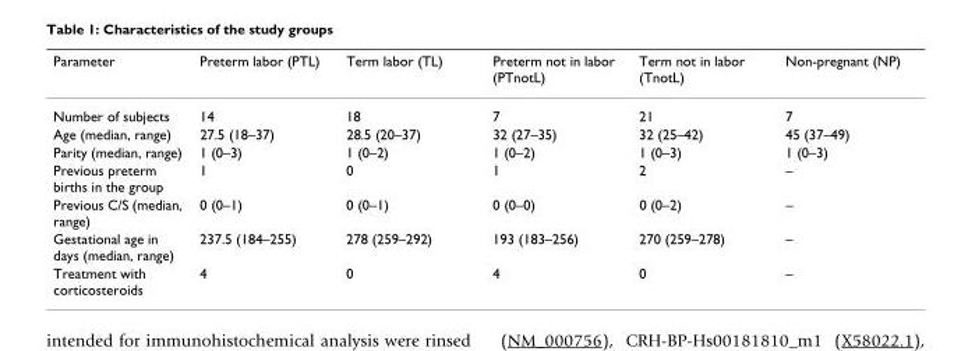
<table><thead><tr><td>Parameter</td><td>Preterm labor (PTL)</td><td>Term labor (TL)</td><td>Preterm not in labor (PTnotL)</td><td>Term not in labor (TnotL)</td><td>Non-pregnant (NP)</td></tr></thead><tbody><tr><td>Number of subjects</td><td>14</td><td>18</td><td>7</td><td>21</td><td>7</td></tr><tr><td>Age (median, range)</td><td>27.5 (18–37)</td><td>28.5 (20–37)</td><td>32 (27–35)</td><td>32 (25–42)</td><td>45 (37–49)</td></tr><tr><td>Parity (median, range)</td><td>1 (0–3)</td><td>1 (0–2)</td><td>1 (0–2)</td><td>1 (0–3)</td><td>1 (0–3)</td></tr><tr><td>Previous preterm births in the group</td><td>1</td><td>0</td><td>1</td><td>2</td><td>–</td></tr><tr><td>Previous C/S (median, range)</td><td>0 (0–1)</td><td>0 (0–1)</td><td>0 (0–0)</td><td>0 (0–2)</td><td>–</td></tr><tr><td>Gestational age in days (median, range)</td><td>237.5 (184–255)</td><td>278 (259–292)</td><td>193 (183–256)</td><td>270 (259–278)</td><td>–</td></tr><tr><td>Treatment with corticosteroids</td><td>4</td><td>0</td><td>4</td><td>0</td><td>–</td></tr></tbody></table>